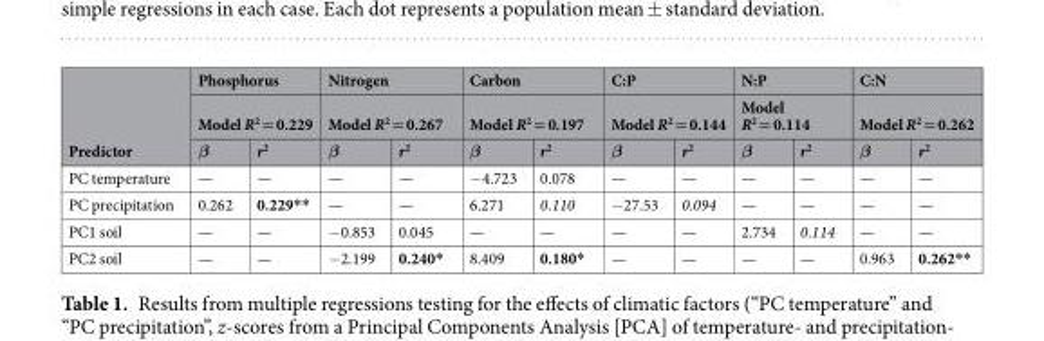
<table><thead><tr><td rowspan="3">Predictor</td><td rowspan="2" colspan="2">Phosphorus Model R<sup>2</sup> = 0.229</td><td rowspan="2" colspan="2">Nitrogen Model R<sup>2</sup> = 0.267</td><td rowspan="2" colspan="2">Carbon Model R<sup>2</sup> = 0.197</td><td rowspan="2" colspan="2">C:P Model R<sup>2</sup> = 0.144</td><td rowspan="2" colspan="2">N:P Model R<sup>2</sup> = 0.114</td><td rowspan="2" colspan="2">C:N Model R<sup>2</sup> = 0.262</td></tr><tr></tr><tr><td>β</td><td>r<sup>2</sup></td><td>β</td><td>r<sup>2</sup></td><td>β</td><td>r<sup>2</sup></td><td>β</td><td>r<sup>2</sup></td><td>β</td><td>r<sup>2</sup></td><td>β</td><td>r<sup>2</sup></td></tr></thead><tbody><tr><td>PC temperature</td><td>—</td><td>—</td><td>—</td><td>—</td><td>−4.723</td><td>0.078</td><td>—</td><td>—</td><td>—</td><td>—</td><td>—</td><td>—</td></tr><tr><td>PC precipitation</td><td>0.262</td><td>0.229**</td><td>—</td><td>—</td><td>6.271</td><td>0.110</td><td>−27.53</td><td>0.094</td><td>—</td><td>—</td><td>—</td><td>—</td></tr><tr><td>PC1 soil</td><td>—</td><td>—</td><td>−0.853</td><td>0.045</td><td>—</td><td>—</td><td>—</td><td>—</td><td>2.734</td><td>0.114</td><td>—</td><td>—</td></tr><tr><td>PC2 soil</td><td>—</td><td>—</td><td>−2.199</td><td>0.240*</td><td>8.409</td><td>0.180*</td><td>—</td><td>—</td><td>—</td><td>—</td><td>0.963</td><td>0.262**</td></tr></tbody></table>